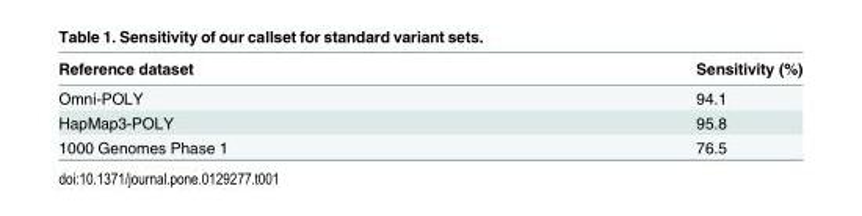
<table><thead><tr><td>Reference dataset</td><td>Sensitivity (%)</td></tr></thead><tbody><tr><td>Omni-POLY</td><td>94.1</td></tr><tr><td>HapMap3-POLY</td><td>95.8</td></tr><tr><td>1000 Genomes Phase 1</td><td>76.5</td></tr></tbody></table>